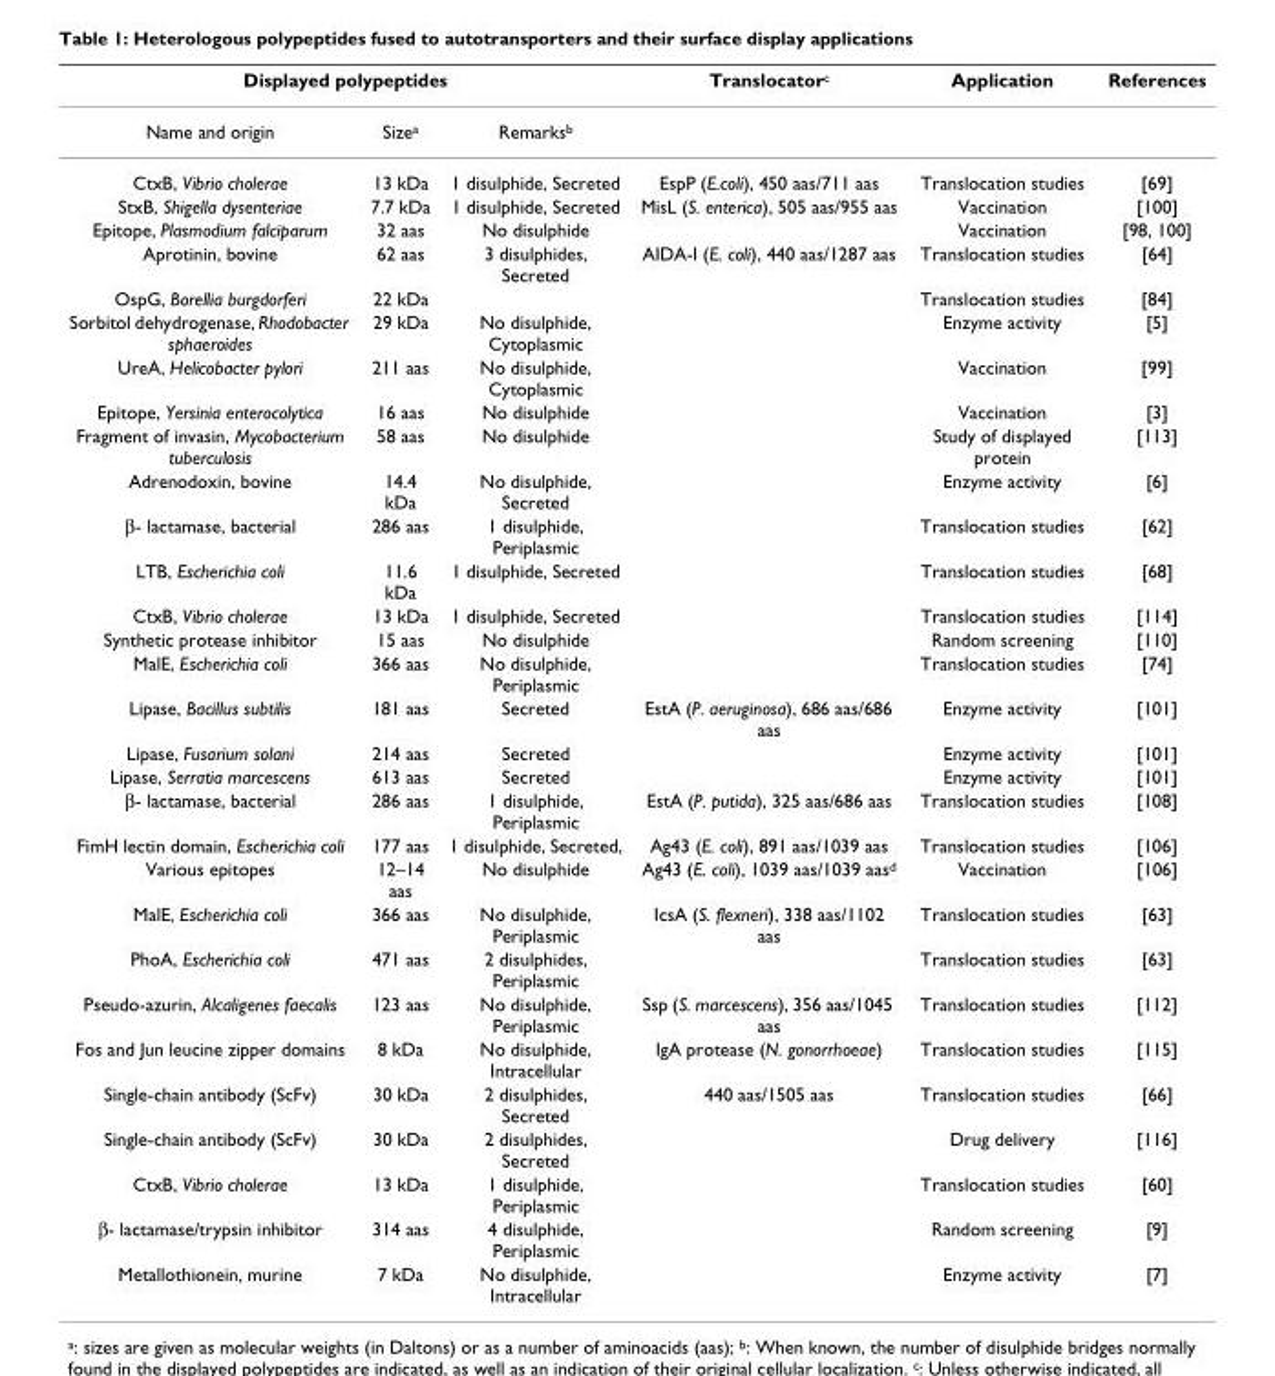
<table><thead><tr><td colspan="3">Displayed polypeptides</td><td rowspan="2">Translocator<sup>c</sup></td><td rowspan="2">Application</td><td rowspan="2">References</td></tr><tr><td>Name and origin</td><td>Size<sup>a</sup></td><td>Remarks<sup>b</sup></td></tr></thead><tbody><tr><td>CtxB, Vibrio cholerae</td><td>13 kDa</td><td>1 disulphide, Secreted</td><td>EspP (E.coli), 450 aas/711 aas</td><td>Translocation studies</td><td>[69]</td></tr><tr><td>StxB, Shigella dysenteriae</td><td>7.7 kDa</td><td>1 disulphide, Secreted</td><td>MisL (S. enterica), 505 aas/955 aas</td><td>Vaccination</td><td>[100]</td></tr><tr><td>Epitope, Plasmodium falciparum</td><td>32 aas</td><td>No disulphide</td><td></td><td>Vaccination</td><td>[98, 100]</td></tr><tr><td>Aprotinin, bovine</td><td>62 aas</td><td>3 disulphides, Secreted</td><td>AIDA-I (E. coli), 440 aas/1287 aas</td><td>Translocation studies</td><td>[64]</td></tr><tr><td>OspG, Borellia burgdorferi</td><td>22 kDa</td><td></td><td></td><td>Translocation studies</td><td>[84]</td></tr><tr><td>Sorbitol dehydrogenase, Rhodobacter sphaeroides</td><td>29 kDa</td><td>No disulphide, Cytoplasmic</td><td></td><td>Enzyme activity</td><td>[5]</td></tr><tr><td>UreA, Helicobacter pylori</td><td>211 aas</td><td>No disulphide, Cytoplasmic</td><td></td><td>Vaccination</td><td>[99]</td></tr><tr><td>Epitope, Yersinia enterocolytica</td><td>16 aas</td><td>No disulphide</td><td></td><td>Vaccination</td><td>[3]</td></tr><tr><td>Fragment of invasin, Mycobacterium tuberculosis</td><td>58 aas</td><td>No disulphide</td><td></td><td>Study of displayed protein</td><td>[113]</td></tr><tr><td>Adrenodoxin, bovine</td><td>14.4 kDa</td><td>No disulphide, Secreted</td><td></td><td>Enzyme activity</td><td>[6]</td></tr><tr><td>β- lactamase, bacterial</td><td>286 aas</td><td>1 disulphide, Periplasmic</td><td></td><td>Translocation studies</td><td>[62]</td></tr><tr><td>LTB, Escherichia coli</td><td>11.6 kDa</td><td>1 disulphide, Secreted</td><td></td><td>Translocation studies</td><td>[68]</td></tr><tr><td>CtxB, Vibrio cholerae</td><td>13 kDa</td><td>1 disulphide, Secreted</td><td></td><td>Translocation studies</td><td>[114]</td></tr><tr><td>Synthetic protease inhibitor</td><td>15 aas</td><td>No disulphide</td><td></td><td>Random screening</td><td>[110]</td></tr><tr><td>MalE, Escherichia coli</td><td>366 aas</td><td>No disulphide, Periplasmic</td><td></td><td>Translocation studies</td><td>[74]</td></tr><tr><td>Lipase, Bacillus subtilis</td><td>181 aas</td><td>Secreted</td><td>EstA (P. aeruginosa), 686 aas/686 aas</td><td>Enzyme activity</td><td>[101]</td></tr><tr><td>Lipase, Fusarium solani</td><td>214 aas</td><td>Secreted</td><td></td><td>Enzyme activity</td><td>[101]</td></tr><tr><td>Lipase, Serratia marcescens</td><td>613 aas</td><td>Secreted</td><td></td><td>Enzyme activity</td><td>[101]</td></tr><tr><td>β- lactamase, bacterial</td><td>286 aas</td><td>1 disulphide, Periplasmic</td><td>EstA (P. putida), 325 aas/686 aas</td><td>Translocation studies</td><td>[108]</td></tr><tr><td>FimH lectin domain, Escherichia coli</td><td>177 aas</td><td>1 disulphide, Secreted,</td><td>Ag43 (E. coli), 891 aas/1039 aas</td><td>Translocation studies</td><td>[106]</td></tr><tr><td>Various epitopes</td><td>12–14 aas</td><td>No disulphide</td><td>Ag43 (E. coli), 1039 aas/1039 aas<sup>d</sup></td><td>Vaccination</td><td>[106]</td></tr><tr><td>MalE, Escherichia coli</td><td>366 aas</td><td>No disulphide, Periplasmic</td><td>IcsA (S. flexneri), 338 aas/1102 aas</td><td>Translocation studies</td><td>[63]</td></tr><tr><td>PhoA, Escherichia coli</td><td>471 aas</td><td>2 disulphides, Periplasmic</td><td></td><td>Translocation studies</td><td>[63]</td></tr><tr><td>Pseudo-azurin, Alcaligenes faecalis</td><td>123 aas</td><td>No disulphide, Periplasmic</td><td>Ssp (S. marcescens), 356 aas/1045 aas</td><td>Translocation studies</td><td>[112]</td></tr><tr><td>Fos and Jun leucine zipper domains</td><td>8 kDa</td><td>No disulphide, Intracellular</td><td>IgA protease (N. gonorrhoeae)</td><td>Translocation studies</td><td>[115]</td></tr><tr><td>Single-chain antibody (ScFv)</td><td>30 kDa</td><td>2 disulphides, Secreted</td><td>440 aas/1505 aas</td><td>Translocation studies</td><td>[66]</td></tr><tr><td>Single-chain antibody (ScFv)</td><td>30 kDa</td><td>2 disulphides, Secreted</td><td></td><td>Drug delivery</td><td>[116]</td></tr><tr><td>CtxB, Vibrio cholerae</td><td>13 kDa</td><td>1 disulphide, Periplasmic</td><td></td><td>Translocation studies</td><td>[60]</td></tr><tr><td>β- lactamase/trypsin inhibitor</td><td>314 aas</td><td>4 disulphide, Periplasmic</td><td></td><td>Random screening</td><td>[9]</td></tr><tr><td>Metallothionein, murine</td><td>7 kDa</td><td>No disulphide, Intracellular</td><td></td><td>Enzyme activity</td><td>[7]</td></tr></tbody></table>